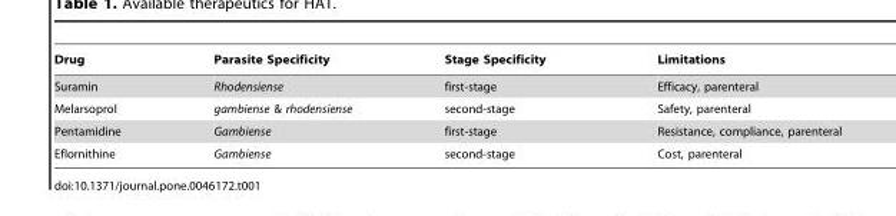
<table><thead><tr><td>Drug</td><td>Parasite Specificity</td><td>Stage Specificity</td><td>Limitations</td></tr></thead><tbody><tr><td>Suramin</td><td>Rhodensiense</td><td>first-stage</td><td>Efficacy, parenteral</td></tr><tr><td>Melarsoprol</td><td>gambiense &amp; rhodensiense</td><td>second-stage</td><td>Safety, parenteral</td></tr><tr><td>Pentamidine</td><td>Gambiense</td><td>first-stage</td><td>Resistance, compliance, parenteral</td></tr><tr><td>Eflornithine</td><td>Gambiense</td><td>second-stage</td><td>Cost, parenteral</td></tr></tbody></table>